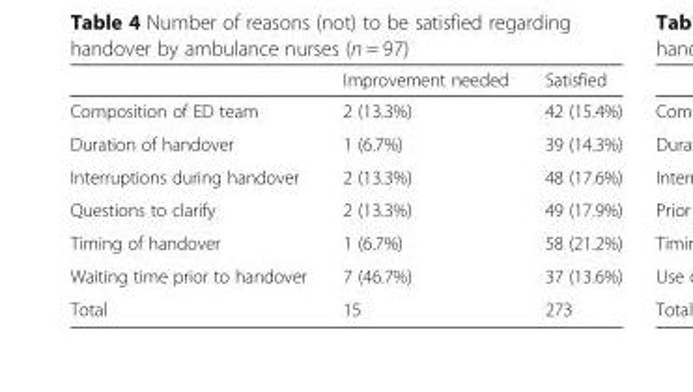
<table><thead><tr><td></td><td>Improvement needed</td><td>Satisfied</td></tr></thead><tbody><tr><td>Composition of ED team</td><td>2 (13.3%)</td><td>42 (15.4%)</td></tr><tr><td>Duration of handover</td><td>1 (6.7%)</td><td>39 (14.3%)</td></tr><tr><td>Interruptions during handover</td><td>2 (13.3%)</td><td>48 (17.6%)</td></tr><tr><td>Questions to clarify</td><td>2 (13.3%)</td><td>49 (17.9%)</td></tr><tr><td>Timing of handover</td><td>1 (6.7%)</td><td>58 (21.2%)</td></tr><tr><td>Waiting time prior to handover</td><td>7 (46.7%)</td><td>37 (13.6%)</td></tr><tr><td>Total</td><td>15</td><td>273</td></tr></tbody></table>